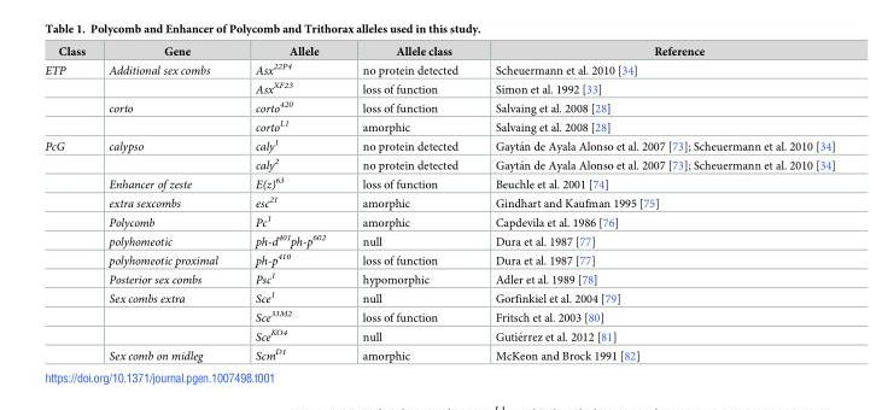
<table><thead><tr><td>Class</td><td>Gene</td><td>Allele</td><td>Allele class</td><td>Reference</td></tr></thead><tbody><tr><td rowspan="4">ETP</td><td>Additional sex combs</td><td>Asx<sup>22P4</sup></td><td>no protein detected</td><td>Scheuermann et al. 2010 [34]</td></tr><tr><td></td><td>Asx<sup>XF23</sup></td><td>loss of function</td><td>Simon et al. 1992 [33]</td></tr><tr><td>corto</td><td>corto<sup>420</sup></td><td>loss of function</td><td>Salvaing et al. 2008 [28]</td></tr><tr><td></td><td>corto<sup>L1</sup></td><td>amorphic</td><td>Salvaing et al. 2008 [28]</td></tr><tr><td rowspan="12">PcG</td><td>calypso</td><td>caly<sup>1</sup></td><td>no protein detected</td><td>Gayta´n de Ayala Alonso et al. 2007 [73]; Scheuermann et al. 2010 [34]</td></tr><tr><td></td><td>caly<sup>2</sup></td><td>no protein detected</td><td>Gayta´n de Ayala Alonso et al. 2007 [73]; Scheuermann et al. 2010 [34]</td></tr><tr><td>Enhancer of zeste</td><td>E(z)<sup>63</sup></td><td>loss of function</td><td>Beuchle et al. 2001 [74]</td></tr><tr><td>extra sexcombs</td><td>esc<sup>21</sup></td><td>amorphic</td><td>Gindhart and Kaufman 1995 [75]</td></tr><tr><td>Polycomb</td><td>Pc<sup>1</sup></td><td>amorphic</td><td>Capdevila et al. 1986 [76]</td></tr><tr><td>polyhomeotic</td><td>ph-d<sup>401</sup>ph-p<sup>602</sup></td><td>null</td><td>Dura et al. 1987 [77]</td></tr><tr><td>polyhomeotic proximal</td><td>ph-p<sup>410</sup></td><td>loss of function</td><td>Dura et al. 1987 [77]</td></tr><tr><td>Posterior sex combs</td><td>Psc<sup>1</sup></td><td>hypomorphic</td><td>Adler et al. 1989 [78]</td></tr><tr><td>Sex combs extra</td><td>Sce<sup>1</sup></td><td>null</td><td>Gorfinkiel et al. 2004 [79]</td></tr><tr><td></td><td>Sce<sup>33M2</sup></td><td>loss of function</td><td>Fritsch et al. 2003 [80]</td></tr><tr><td></td><td>Sce<sup>KO4</sup></td><td>null</td><td>Gutie´rrez et al. 2012 [81]</td></tr><tr><td>Sex comb on midleg</td><td>Scm<sup>D1</sup></td><td>amorphic</td><td>McKeon and Brock 1991 [82]</td></tr></tbody></table>